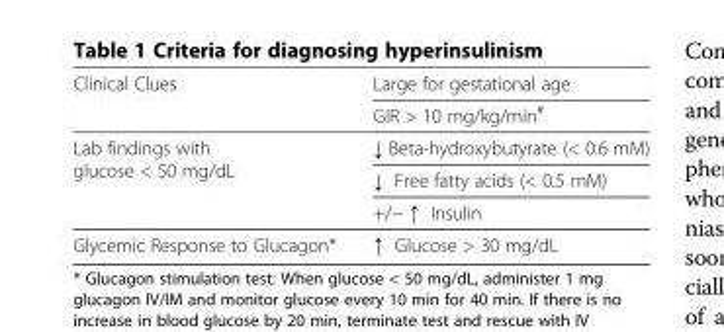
<table><tbody><tr><td rowspan="2">Clinical Clues</td><td>Large for gestational age</td></tr><tr><td>GIR &gt; 10 mg/kg/min<sup>#</sup></td></tr><tr><td rowspan="3">Lab findings with glucose &lt; 50 mg/dL</td><td>↓ Beta-hydroxybutyrate (&lt; 0.6 mM)</td></tr><tr><td>↓ Free fatty acids (&lt; 0.5 mM)</td></tr><tr><td>+/− ↑ Insulin</td></tr><tr><td>Glycemic Response to Glucagon*</td><td>↑ Glucose &gt; 30 mg/dL</td></tr></tbody></table>